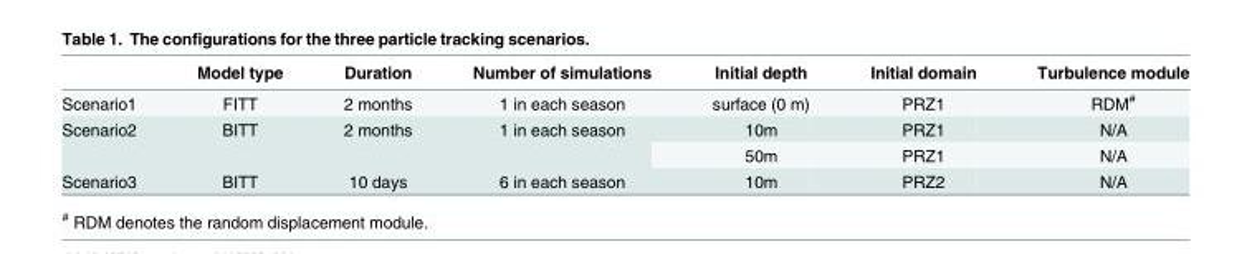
<table><thead><tr><td></td><td>Model type</td><td>Duration</td><td>Number of simulations</td><td>Initial depth</td><td>Initial domain</td><td>Turbulence module</td></tr></thead><tbody><tr><td>Scenario1</td><td>FITT</td><td>2 months</td><td>1 in each season</td><td>surface (0 m)</td><td>PRZ1</td><td>RDM<sup>#</sup></td></tr><tr><td rowspan="2">Scenario2</td><td rowspan="2">BITT</td><td rowspan="2">2 months</td><td rowspan="2">1 in each season</td><td>10m</td><td>PRZ1</td><td>N/A</td></tr><tr><td>50m</td><td>PRZ1</td><td>N/A</td></tr><tr><td>Scenario3</td><td>BITT</td><td>10 days</td><td>6 in each season</td><td>10m</td><td>PRZ2</td><td>N/A</td></tr></tbody></table>